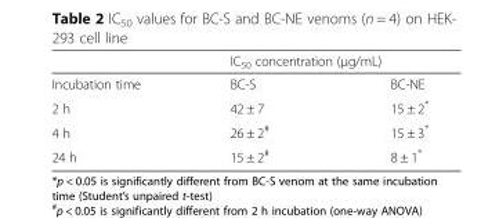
<table><thead><tr><td rowspan="2">Incubation time</td><td colspan="2">IC<sub>50</sub> concentration (μg/mL)</td></tr><tr><td>BC-S</td><td>BC-NE</td></tr></thead><tbody><tr><td>2 h</td><td>42 ± 7</td><td>15 ± 2*</td></tr><tr><td>4 h</td><td>26 ± 2<sup>#</sup></td><td>15 ± 3*</td></tr><tr><td>24 h</td><td>15 ± 2<sup>#</sup></td><td>8 ± 1*</td></tr></tbody></table>